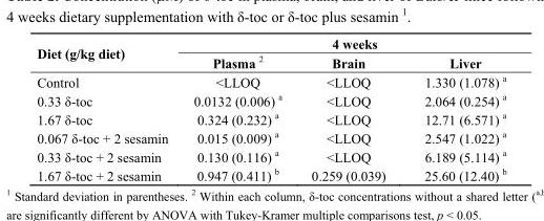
<table><thead><tr><td rowspan="2">Diet (g/kg diet)</td><td colspan="3">4 weeks</td></tr><tr><td>Plasma <sup>2</sup></td><td>Brain</td><td>Liver</td></tr></thead><tbody><tr><td>Control</td><td>&lt;LLOQ</td><td>&lt;LLOQ</td><td>1.330 (1.078) <sup>a</sup></td></tr><tr><td>0.33 δ-toc</td><td>0.0132 (0.006) <sup>a</sup></td><td>&lt;LLOQ</td><td>2.064 (0.254) <sup>a</sup></td></tr><tr><td>1.67 δ-toc</td><td>0.324 (0.232) <sup>a</sup></td><td>&lt;LLOQ</td><td>12.71 (6.571) <sup>a</sup></td></tr><tr><td>0.067 δ-toc + 2 sesamin</td><td>0.015 (0.009) <sup>a</sup></td><td>&lt;LLOQ</td><td>2.547 (1.022) <sup>a</sup></td></tr><tr><td>0.33 δ-toc + 2 sesamin</td><td>0.130 (0.116) <sup>a</sup></td><td>&lt;LLOQ</td><td>6.189 (5.114) <sup>a</sup></td></tr><tr><td>1.67 δ-toc + 2 sesamin</td><td>0.947 (0.411) <sup>b</sup></td><td>0.259 (0.039)</td><td>25.60 (12.40) <sup>b</sup></td></tr></tbody></table>